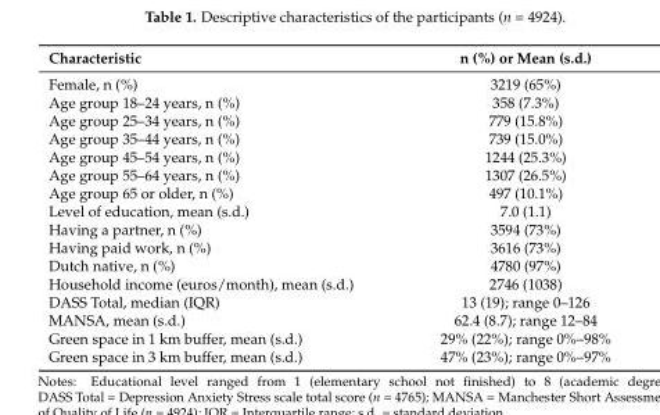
<table><thead><tr><td>Characteristic</td><td>n (%) or Mean (s.d.)</td></tr></thead><tbody><tr><td>Female, n (%)</td><td>3219 (65%)</td></tr><tr><td>Age group 18–24 years, n (%)</td><td>358 (7.3%)</td></tr><tr><td>Age group 25–34 years, n (%)</td><td>779 (15.8%)</td></tr><tr><td>Age group 35–44 years, n (%)</td><td>739 (15.0%)</td></tr><tr><td>Age group 45–54 years, n (%)</td><td>1244 (25.3%)</td></tr><tr><td>Age group 55–64 years, n (%)</td><td>1307 (26.5%)</td></tr><tr><td>Age group 65 or older, n (%)</td><td>497 (10.1%)</td></tr><tr><td>Level of education, mean (s.d.)</td><td>7.0 (1.1)</td></tr><tr><td>Having a partner, n (%)</td><td>3594 (73%)</td></tr><tr><td>Having paid work, n (%)</td><td>3616 (73%)</td></tr><tr><td>Dutch native, n (%)</td><td>4780 (97%)</td></tr><tr><td>Household income (euros/month), mean (s.d.)</td><td>2746 (1038)</td></tr><tr><td>DASS Total, median (IQR)</td><td>13 (19); range 0–126</td></tr><tr><td>MANSA, mean (s.d.)</td><td>62.4 (8.7); range 12–84</td></tr><tr><td>Green space in 1 km buffer, mean (s.d.)</td><td>29% (22%); range 0%–98%</td></tr><tr><td>Green space in 3 km buffer, mean (s.d.)</td><td>47% (23%); range 0%–97%</td></tr></tbody></table>